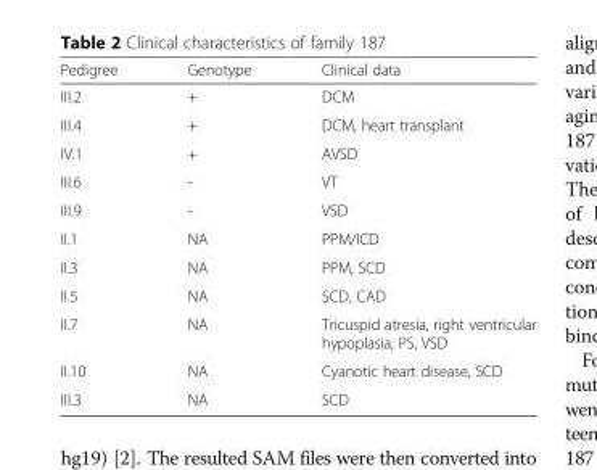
<table><thead><tr><td>Pedigree</td><td>Genotype</td><td>Clinical data</td></tr></thead><tbody><tr><td>III.2</td><td>+</td><td>DCM</td></tr><tr><td>III.4</td><td>+</td><td>DCM, heart transplant</td></tr><tr><td>IV.1</td><td>+</td><td>AVSD</td></tr><tr><td>III.6</td><td>-</td><td>VT</td></tr><tr><td>III.9</td><td>-</td><td>VSD</td></tr><tr><td>II.1</td><td>NA</td><td>PPM/ICD</td></tr><tr><td>II.3</td><td>NA</td><td>PPM, SCD</td></tr><tr><td>II.5</td><td>NA</td><td>SCD, CAD</td></tr><tr><td>II.7</td><td>NA</td><td>Tricuspid atresia, right ventricular hypoplasia, PS, VSD</td></tr><tr><td>II.10</td><td>NA</td><td>Cyanotic heart disease, SCD</td></tr><tr><td>III.3</td><td>NA</td><td>SCD</td></tr></tbody></table>